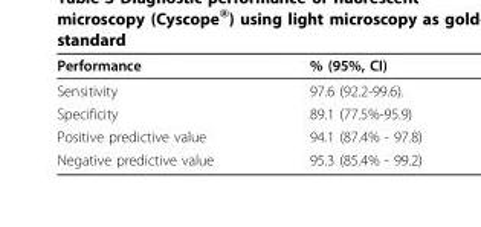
<table><thead><tr><td>Performance</td><td>% (95%, CI)</td></tr></thead><tbody><tr><td>Sensitivity</td><td>97.6 (92.2-99.6).</td></tr><tr><td>Specificity</td><td>89.1 (77.5%-95.9)</td></tr><tr><td>Positive predictive value</td><td>94.1 (87.4% - 97.8)</td></tr><tr><td>Negative predictive value</td><td>95.3 (85.4% - 99.2)</td></tr></tbody></table>